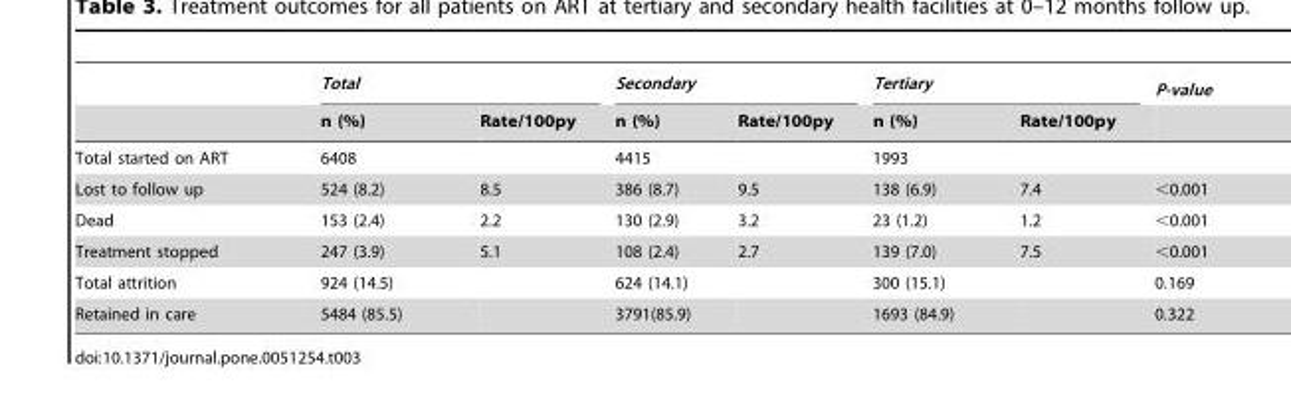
<table><thead><tr><td rowspan="2"></td><td colspan="2">Total</td><td colspan="2">Secondary</td><td colspan="2">Tertiary</td><td rowspan="2">P-value</td></tr><tr><td>n (%)</td><td>Rate/100py</td><td>n (%)</td><td>Rate/100py</td><td>n (%)</td><td>Rate/100py</td></tr></thead><tbody><tr><td>Total started on ART</td><td>6408</td><td></td><td>4415</td><td></td><td>1993</td><td></td><td></td></tr><tr><td>Lost to follow up</td><td>524 (8.2)</td><td>8.5</td><td>386 (8.7)</td><td>9.5</td><td>138 (6.9)</td><td>7.4</td><td>&lt;0.001</td></tr><tr><td>Dead</td><td>153 (2.4)</td><td>2.2</td><td>130 (2.9)</td><td>3.2</td><td>23 (1.2)</td><td>1.2</td><td>&lt;0.001</td></tr><tr><td>Treatment stopped</td><td>247 (3.9)</td><td>5.1</td><td>108 (2.4)</td><td>2.7</td><td>139 (7.0)</td><td>7.5</td><td>&lt;0.001</td></tr><tr><td>Total attrition</td><td>924 (14.5)</td><td></td><td>624 (14.1)</td><td></td><td>300 (15.1)</td><td></td><td>0.169</td></tr><tr><td>Retained in care</td><td>5484 (85.5)</td><td></td><td>3791(85.9)</td><td></td><td>1693 (84.9)</td><td></td><td>0.322</td></tr></tbody></table>